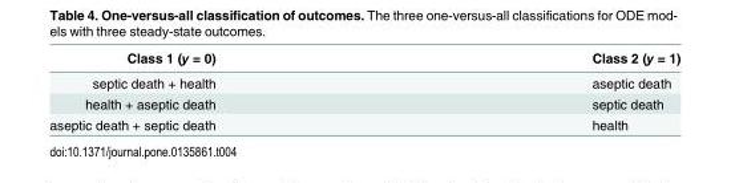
<table><thead><tr><td>Class 1 (y = 0)</td><td>Class 2 (y = 1)</td></tr></thead><tbody><tr><td>septic death + health</td><td>aseptic death</td></tr><tr><td>health + aseptic death</td><td>septic death</td></tr><tr><td>aseptic death + septic death</td><td>health</td></tr></tbody></table>